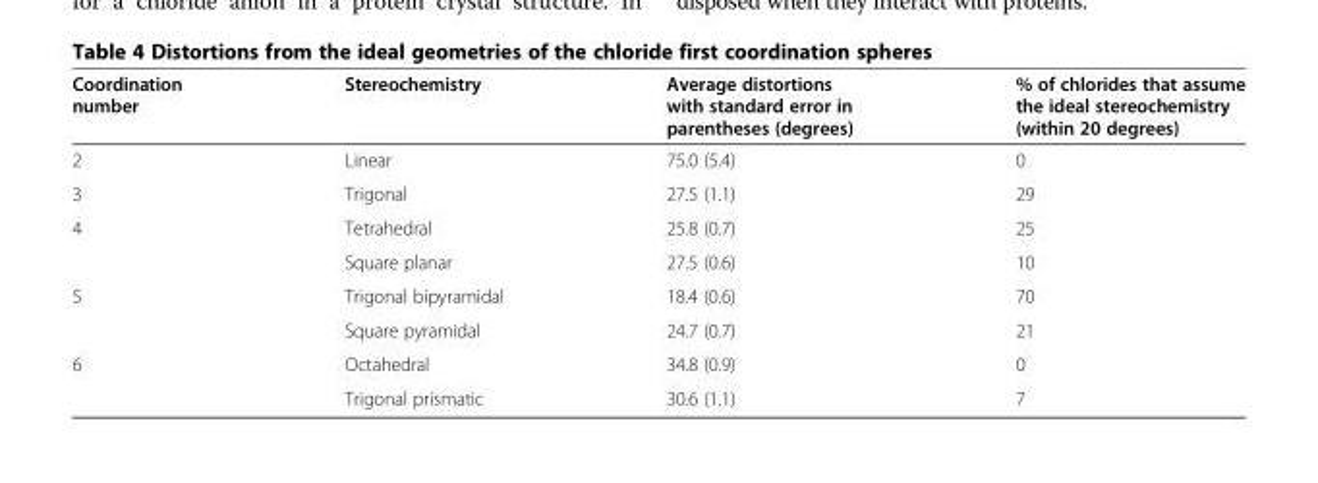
<table><thead><tr><td>Coordination number</td><td>Stereochemistry</td><td>Average distortions with standard error in parentheses (degrees)</td><td>% of chlorides that assume the ideal stereochemistry (within 20 degrees)</td></tr></thead><tbody><tr><td>2</td><td>Linear</td><td>75.0 (5.4)</td><td>0</td></tr><tr><td>3</td><td>Trigonal</td><td>27.5 (1.1)</td><td>29</td></tr><tr><td rowspan="2">4</td><td>Tetrahedral</td><td>25.8 (0.7)</td><td>25</td></tr><tr><td>Square planar</td><td>27.5 (0.6)</td><td>10</td></tr><tr><td rowspan="2">5</td><td>Trigonal bipyramidal</td><td>18.4 (0.6)</td><td>70</td></tr><tr><td>Square pyramidal</td><td>24.7 (0.7)</td><td>21</td></tr><tr><td rowspan="2">6</td><td>Octahedral</td><td>34.8 (0.9)</td><td>0</td></tr><tr><td>Trigonal prismatic</td><td>30.6 (1.1)</td><td>7</td></tr></tbody></table>